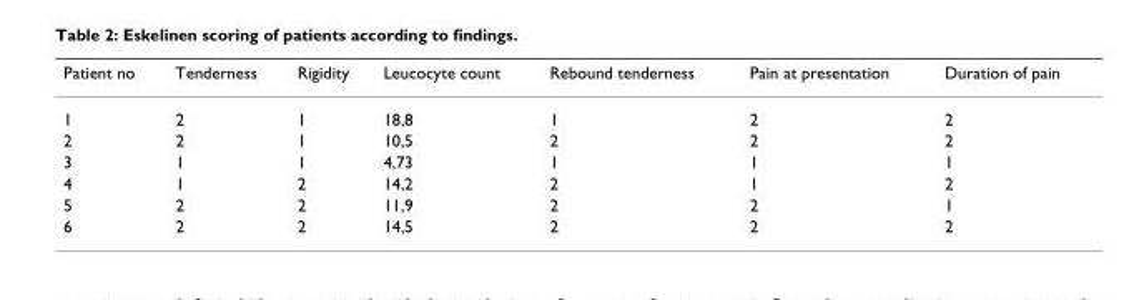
<table><thead><tr><td>Patient no</td><td>Tenderness</td><td>Rigidity</td><td>Leucocyte count</td><td>Rebound tenderness</td><td>Pain at presentation</td><td>Duration of pain</td></tr></thead><tbody><tr><td>1</td><td>2</td><td>1</td><td>18,8</td><td>1</td><td>2</td><td>2</td></tr><tr><td>2</td><td>2</td><td>1</td><td>10,5</td><td>2</td><td>2</td><td>2</td></tr><tr><td>3</td><td>1</td><td>1</td><td>4,73</td><td>1</td><td>1</td><td>1</td></tr><tr><td>4</td><td>1</td><td>2</td><td>14,2</td><td>2</td><td>1</td><td>2</td></tr><tr><td>5</td><td>2</td><td>2</td><td>11,9</td><td>2</td><td>2</td><td>1</td></tr><tr><td>6</td><td>2</td><td>2</td><td>14,5</td><td>2</td><td>2</td><td>2</td></tr></tbody></table>